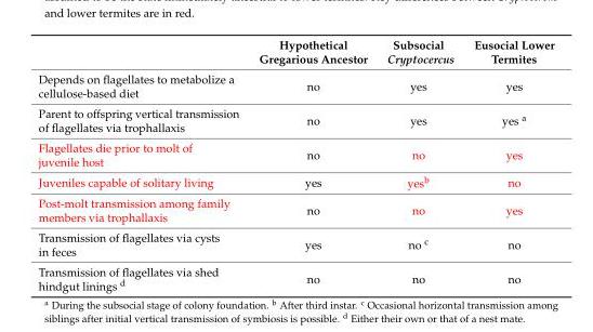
<table><thead><tr><td></td><td>Hypothetical Gregarious Ancestor</td><td>Subsocial Cryptocercus</td><td>Eusocial Lower Termites</td></tr></thead><tbody><tr><td>Depends on flagellates to metabolize a cellulose-based diet</td><td>no</td><td>yes</td><td>yes</td></tr><tr><td>Parent to offspring vertical transmission of flagellates via trophallaxis</td><td>no</td><td>yes</td><td>yes <sup>a</sup></td></tr><tr><td>Flagellates die prior to molt of juvenile host</td><td>no</td><td>no</td><td>yes</td></tr><tr><td>Juveniles capable of solitary living</td><td>yes</td><td>yes<sup>b</sup></td><td>no</td></tr><tr><td>Post-molt transmission among family members via trophallaxis</td><td>no</td><td>no</td><td>yes</td></tr><tr><td>Transmission of flagellates via cysts in feces</td><td>yes</td><td>no <sup>c</sup></td><td>no</td></tr><tr><td>Transmission of flagellates via shed hindgut linings <sup>d</sup></td><td>no</td><td>no</td><td>no</td></tr></tbody></table>